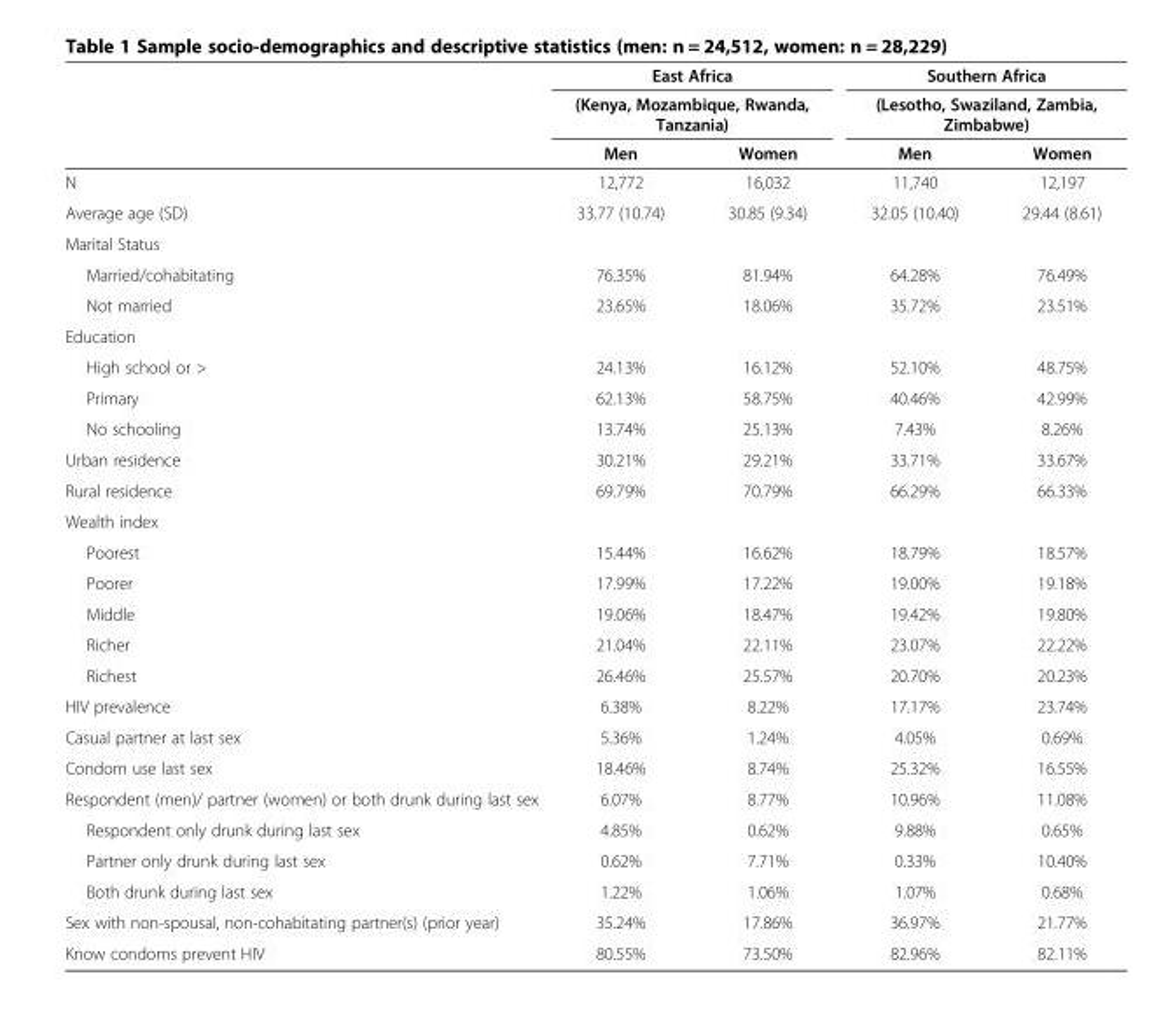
<table><thead><tr><td rowspan="3"></td><td rowspan="2" colspan="2">East Africa (Kenya, Mozambique, Rwanda, Tanzania)</td><td rowspan="2" colspan="2">Southern Africa (Lesotho, Swaziland, Zambia, Zimbabwe)</td></tr><tr></tr><tr><td>Men</td><td>Women</td><td>Men</td><td>Women</td></tr></thead><tbody><tr><td>N</td><td>12,772</td><td>16,032</td><td>11,740</td><td>12,197</td></tr><tr><td>Average age (SD)</td><td>33.77 (10.74)</td><td>30.85 (9.34)</td><td>32.05 (10.40)</td><td>29.44 (8.61)</td></tr><tr><td colspan="5">Marital Status</td></tr><tr><td>Married/cohabitating</td><td>76.35%</td><td>81.94%</td><td>64.28%</td><td>76.49%</td></tr><tr><td>Not married</td><td>23.65%</td><td>18.06%</td><td>35.72%</td><td>23.51%</td></tr><tr><td colspan="5">Education</td></tr><tr><td>High school or &gt;</td><td>24.13%</td><td>16.12%</td><td>52.10%</td><td>48.75%</td></tr><tr><td>Primary</td><td>62.13%</td><td>58.75%</td><td>40.46%</td><td>42.99%</td></tr><tr><td>No schooling</td><td>13.74%</td><td>25.13%</td><td>7.43%</td><td>8.26%</td></tr><tr><td>Urban residence</td><td>30.21%</td><td>29.21%</td><td>33.71%</td><td>33.67%</td></tr><tr><td>Rural residence</td><td>69.79%</td><td>70.79%</td><td>66.29%</td><td>66.33%</td></tr><tr><td colspan="5">Wealth index</td></tr><tr><td>Poorest</td><td>15.44%</td><td>16.62%</td><td>18.79%</td><td>18.57%</td></tr><tr><td>Poorer</td><td>17.99%</td><td>17.22%</td><td>19.00%</td><td>19.18%</td></tr><tr><td>Middle</td><td>19.06%</td><td>18.47%</td><td>19.42%</td><td>19.80%</td></tr><tr><td>Richer</td><td>21.04%</td><td>22.11%</td><td>23.07%</td><td>22.22%</td></tr><tr><td>Richest</td><td>26.46%</td><td>25.57%</td><td>20.70%</td><td>20.23%</td></tr><tr><td>HIV prevalence</td><td>6.38%</td><td>8.22%</td><td>17.17%</td><td>23.74%</td></tr><tr><td>Casual partner at last sex</td><td>5.36%</td><td>1.24%</td><td>4.05%</td><td>0.69%</td></tr><tr><td>Condom use last sex</td><td>18.46%</td><td>8.74%</td><td>25.32%</td><td>16.55%</td></tr><tr><td>Respondent (men)/ partner (women) or both drunk during last sex</td><td>6.07%</td><td>8.77%</td><td>10.96%</td><td>11.08%</td></tr><tr><td>Respondent only drunk during last sex</td><td>4.85%</td><td>0.62%</td><td>9.88%</td><td>0.65%</td></tr><tr><td>Partner only drunk during last sex</td><td>0.62%</td><td>7.71%</td><td>0.33%</td><td>10.40%</td></tr><tr><td>Both drunk during last sex</td><td>1.22%</td><td>1.06%</td><td>1.07%</td><td>0.68%</td></tr><tr><td>Sex with non-spousal, non-cohabitating partner(s) (prior year)</td><td>35.24%</td><td>17.86%</td><td>36.97%</td><td>21.77%</td></tr><tr><td>Know condoms prevent HIV</td><td>80.55%</td><td>73.50%</td><td>82.96%</td><td>82.11%</td></tr></tbody></table>